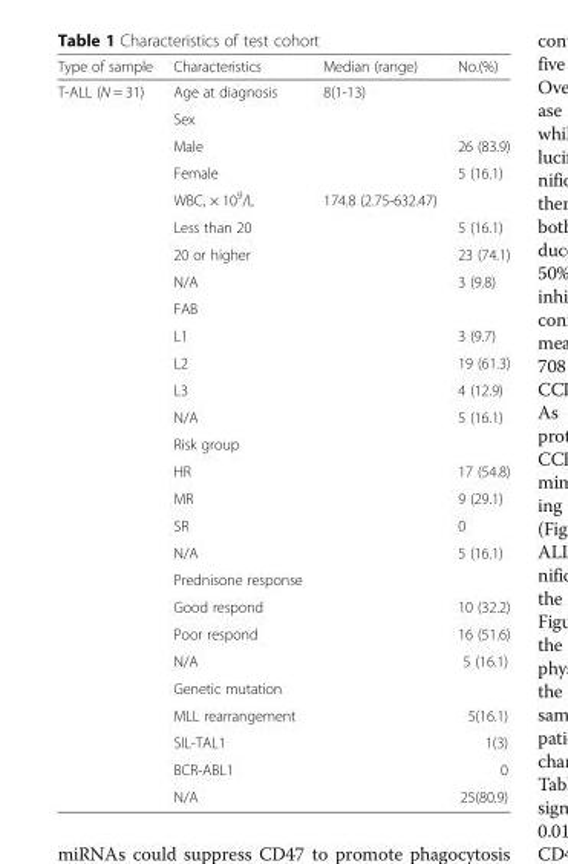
<table><thead><tr><td>Type of sample</td><td>Characteristics</td><td>Median (range)</td><td>No.(%)</td></tr></thead><tbody><tr><td rowspan="27">T-ALL (N = 31)</td><td>Age at diagnosis</td><td>8(1-13)</td><td></td></tr><tr><td>Sex</td><td></td><td></td></tr><tr><td>Male</td><td></td><td>26 (83.9)</td></tr><tr><td>Female</td><td></td><td>5 (16.1)</td></tr><tr><td>WBC, × 10<sup>9</sup>/L</td><td>174.8 (2.75-632.47)</td><td></td></tr><tr><td>Less than 20</td><td></td><td>5 (16.1)</td></tr><tr><td>20 or higher</td><td></td><td>23 (74.1)</td></tr><tr><td>N/A</td><td></td><td>3 (9.8)</td></tr><tr><td>FAB</td><td></td><td></td></tr><tr><td>L1</td><td></td><td>3 (9.7)</td></tr><tr><td>L2</td><td></td><td>19 (61.3)</td></tr><tr><td>L3</td><td></td><td>4 (12.9)</td></tr><tr><td>N/A</td><td></td><td>5 (16.1)</td></tr><tr><td>Risk group</td><td></td><td></td></tr><tr><td>HR</td><td></td><td>17 (54.8)</td></tr><tr><td>MR</td><td></td><td>9 (29.1)</td></tr><tr><td>SR</td><td></td><td>0</td></tr><tr><td>N/A</td><td></td><td>5 (16.1)</td></tr><tr><td>Prednisone response</td><td></td><td></td></tr><tr><td>Good respond</td><td></td><td>10 (32.2)</td></tr><tr><td>Poor respond</td><td></td><td>16 (51.6)</td></tr><tr><td>N/A</td><td></td><td>5 (16.1)</td></tr><tr><td>Genetic mutation</td><td></td><td></td></tr><tr><td>MLL rearrangement</td><td></td><td>5(16.1)</td></tr><tr><td>SIL-TAL1</td><td></td><td>1(3)</td></tr><tr><td>BCR-ABL1</td><td></td><td>0</td></tr><tr><td>N/A</td><td></td><td>25(80.9)</td></tr></tbody></table>